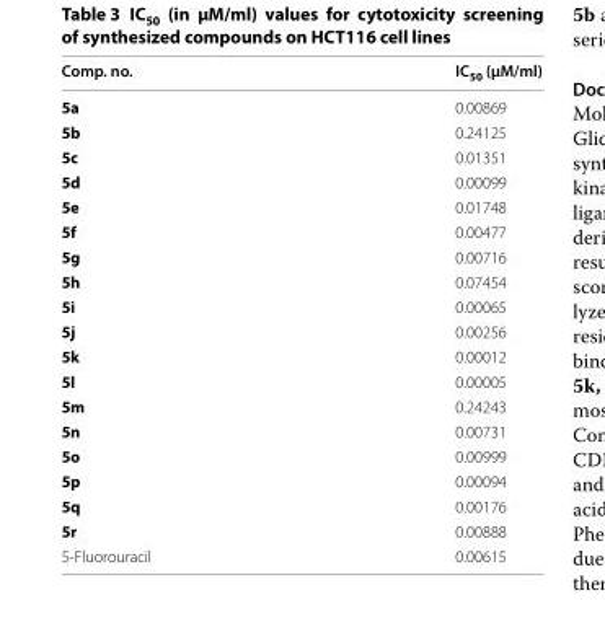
<table><thead><tr><td>Comp. no.</td><td>IC<sub>50</sub> (µM/ml)</td></tr></thead><tbody><tr><td>5a</td><td>0.00869</td></tr><tr><td>5b</td><td>0.24125</td></tr><tr><td>5c</td><td>0.01351</td></tr><tr><td>5d</td><td>0.00099</td></tr><tr><td>5e</td><td>0.01748</td></tr><tr><td>5f</td><td>0.00477</td></tr><tr><td>5g</td><td>0.00716</td></tr><tr><td>5h</td><td>0.07454</td></tr><tr><td>5i</td><td>0.00065</td></tr><tr><td>5j</td><td>0.00256</td></tr><tr><td>5k</td><td>0.00012</td></tr><tr><td>5l</td><td>0.00005</td></tr><tr><td>5m</td><td>0.24243</td></tr><tr><td>5n</td><td>0.00731</td></tr><tr><td>5o</td><td>0.00999</td></tr><tr><td>5p</td><td>0.00094</td></tr><tr><td>5q</td><td>0.00176</td></tr><tr><td>5r</td><td>0.00888</td></tr><tr><td>5-Fluorouracil</td><td>0.00615</td></tr></tbody></table>